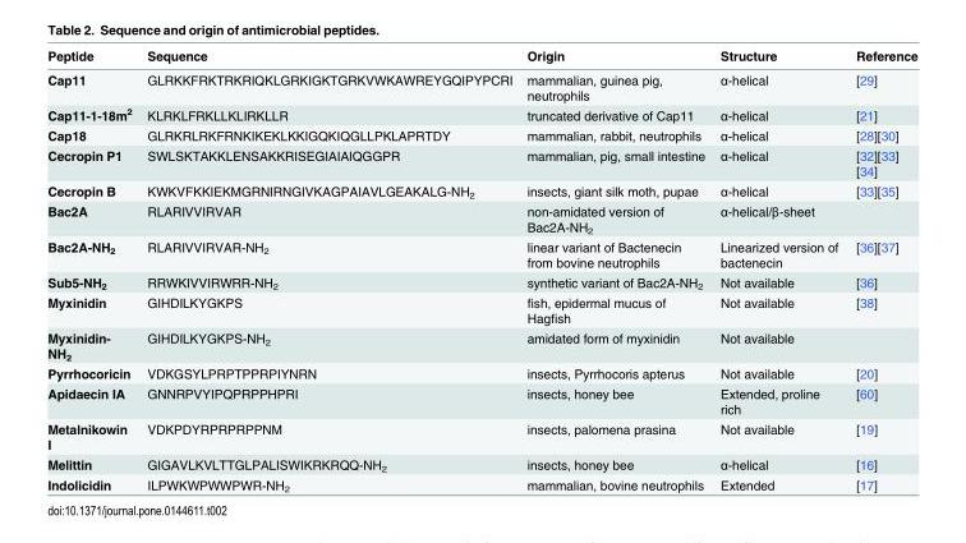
<table><thead><tr><td>Peptide</td><td>Sequence</td><td>Origin</td><td>Structure</td><td>Reference</td></tr></thead><tbody><tr><td>Cap11</td><td>GLRKKFRKTRKRIQKLGRKIGKTGRKVWKAWREYGQIPYPCRI</td><td>mammalian, guinea pig, neutrophils</td><td>α-helical</td><td>[29]</td></tr><tr><td>Cap11-1-18m<sup>2</sup></td><td>KLRKLFRKLLKLIRKLLR</td><td>truncated derivative of Cap11</td><td>α-helical</td><td>[21]</td></tr><tr><td>Cap18</td><td>GLRKRLRKFRNKIKEKLKKIGQKIQGLLPKLAPRTDY</td><td>mammalian, rabbit, neutrophils</td><td>α-helical</td><td>[28][30]</td></tr><tr><td>Cecropin P1</td><td>SWLSKTAKKLENSAKKRISEGIAIAIQGGPR</td><td>mammalian, pig, small intestine</td><td>α-helical</td><td>[32][33] [34]</td></tr><tr><td>Cecropin B</td><td>KWKVFKKIEKMGRNIRNGIVKAGPAIAVLGEAKALG-NH<sub>2</sub></td><td>insects, giant silk moth, pupae</td><td>α-helical</td><td>[33][35]</td></tr><tr><td>Bac2A</td><td>RLARIVVIRVAR</td><td>non-amidated version of Bac2A-NH<sub>2</sub></td><td>α-helical/β-sheet</td><td></td></tr><tr><td>Bac2A-NH<sub>2</sub></td><td>RLARIVVIRVAR-NH<sub>2</sub></td><td>linear variant of Bactenecin from bovine neutrophils</td><td>Linearized version of bactenecin</td><td>[36][37]</td></tr><tr><td>Sub5-NH<sub>2</sub></td><td>RRWKIVVIRWRR-NH<sub>2</sub></td><td>synthetic variant of Bac2A-NH<sub>2</sub></td><td>Not available</td><td>[36]</td></tr><tr><td>Myxinidin</td><td>GIHDILKYGKPS</td><td>fish, epidermal mucus of Hagfish</td><td>Not available</td><td>[38]</td></tr><tr><td>Myxinidin- NH<sub>2</sub></td><td>GIHDILKYGKPS-NH<sub>2</sub></td><td>amidated form of myxinidin</td><td>Not available</td><td></td></tr><tr><td>Pyrrhocoricin</td><td>VDKGSYLPRPTPPRPIYNRN</td><td>insects, Pyrrhocoris apterus</td><td>Not available</td><td>[20]</td></tr><tr><td>Apidaecin IA</td><td>GNNRPVYIPQPRPPHPRI</td><td>insects, honey bee</td><td>Extended, proline rich</td><td>[60]</td></tr><tr><td>Metalnikowin I</td><td>VDKPDYRPRPRPPNM</td><td>insects, palomena prasina</td><td>Not available</td><td>[19]</td></tr><tr><td>Melittin</td><td>GIGAVLKVLTTGLPALISWIKRKRQQ-NH<sub>2</sub></td><td>insects, honey bee</td><td>α-helical</td><td>[16]</td></tr><tr><td>Indolicidin</td><td>ILPWKWPWWPWR-NH<sub>2</sub></td><td>mammalian, bovine neutrophils</td><td>Extended</td><td>[17]</td></tr></tbody></table>